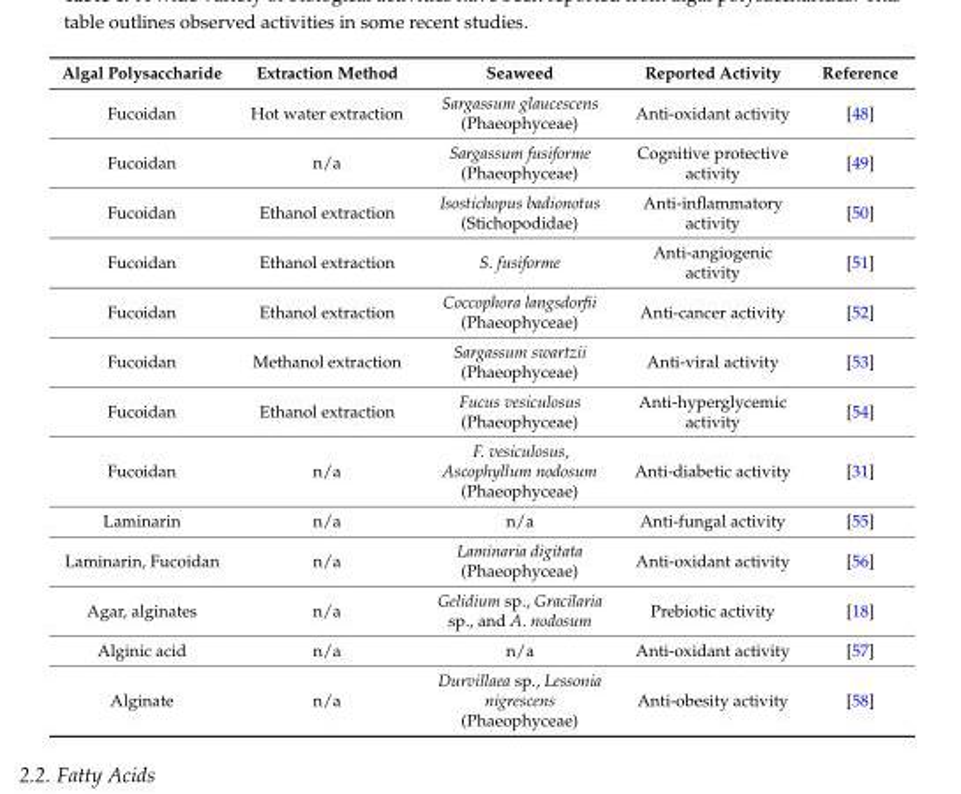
<table><thead><tr><td>Algal Polysaccharide</td><td>Extraction Method</td><td>Seaweed</td><td>Reported Activity</td><td>Reference</td></tr></thead><tbody><tr><td>Fucoidan</td><td>Hot water extraction</td><td>Sargassum glaucescens (Phaeophyceae)</td><td>Anti-oxidant activity</td><td>[48]</td></tr><tr><td>Fucoidan</td><td>n/a</td><td>Sargassum fusiforme (Phaeophyceae)</td><td>Cognitive protective activity</td><td>[49]</td></tr><tr><td>Fucoidan</td><td>Ethanol extraction</td><td>Isostichopus badionotus (Stichopodidae)</td><td>Anti-inflammatory activity</td><td>[50]</td></tr><tr><td>Fucoidan</td><td>Ethanol extraction</td><td>S. fusiforme</td><td>Anti-angiogenic activity</td><td>[51]</td></tr><tr><td>Fucoidan</td><td>Ethanol extraction</td><td>Coccophora langsdorfii (Phaeophyceae)</td><td>Anti-cancer activity</td><td>[52]</td></tr><tr><td>Fucoidan</td><td>Methanol extraction</td><td>Sargassum swartzii (Phaeophyceae)</td><td>Anti-viral activity</td><td>[53]</td></tr><tr><td>Fucoidan</td><td>Ethanol extraction</td><td>Fucus vesiculosus (Phaeophyceae)</td><td>Anti-hyperglycemic activity</td><td>[54]</td></tr><tr><td>Fucoidan</td><td>n/a</td><td>F. vesiculosus, Ascophyllum nodosum (Phaeophyceae)</td><td>Anti-diabetic activity</td><td>[31]</td></tr><tr><td>Laminarin</td><td>n/a</td><td>n/a</td><td>Anti-fungal activity</td><td>[55]</td></tr><tr><td>Laminarin, Fucoidan</td><td>n/a</td><td>Laminaria digitata (Phaeophyceae)</td><td>Anti-oxidant activity</td><td>[56]</td></tr><tr><td>Agar, alginates</td><td>n/a</td><td>Gelidium sp., Gracilaria sp., and A. nodosum</td><td>Prebiotic activity</td><td>[18]</td></tr><tr><td>Alginic acid</td><td>n/a</td><td>n/a</td><td>Anti-oxidant activity</td><td>[57]</td></tr><tr><td>Alginate</td><td>n/a</td><td>Durvillaea sp., Lessonia nigrescens (Phaeophyceae)</td><td>Anti-obesity activity</td><td>[58]</td></tr></tbody></table>